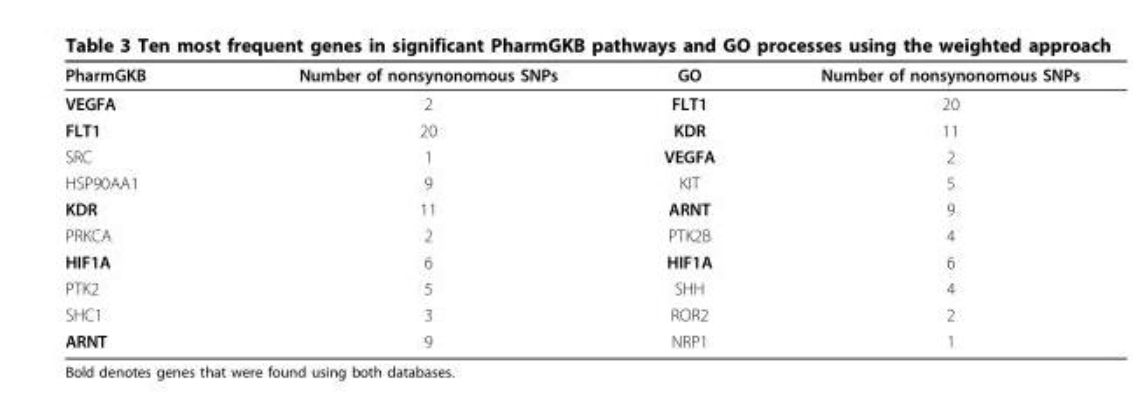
<table><thead><tr><td>PharmGKB</td><td>Number of nonsynonomous SNPs</td><td>GO</td><td>Number of nonsynonomous SNPs</td></tr></thead><tbody><tr><td>VEGFA</td><td>2</td><td>FLT1</td><td>20</td></tr><tr><td>FLT1</td><td>20</td><td>KDR</td><td>11</td></tr><tr><td>SRC</td><td>1</td><td>VEGFA</td><td>2</td></tr><tr><td>HSP90AA1</td><td>9</td><td>KIT</td><td>5</td></tr><tr><td>KDR</td><td>11</td><td>ARNT</td><td>9</td></tr><tr><td>PRKCA</td><td>2</td><td>PTK2B</td><td>4</td></tr><tr><td>HIF1A</td><td>6</td><td>HIF1A</td><td>6</td></tr><tr><td>PTK2</td><td>5</td><td>SHH</td><td>4</td></tr><tr><td>SHC1</td><td>3</td><td>ROR2</td><td>2</td></tr><tr><td>ARNT</td><td>9</td><td>NRP1</td><td>1</td></tr></tbody></table>